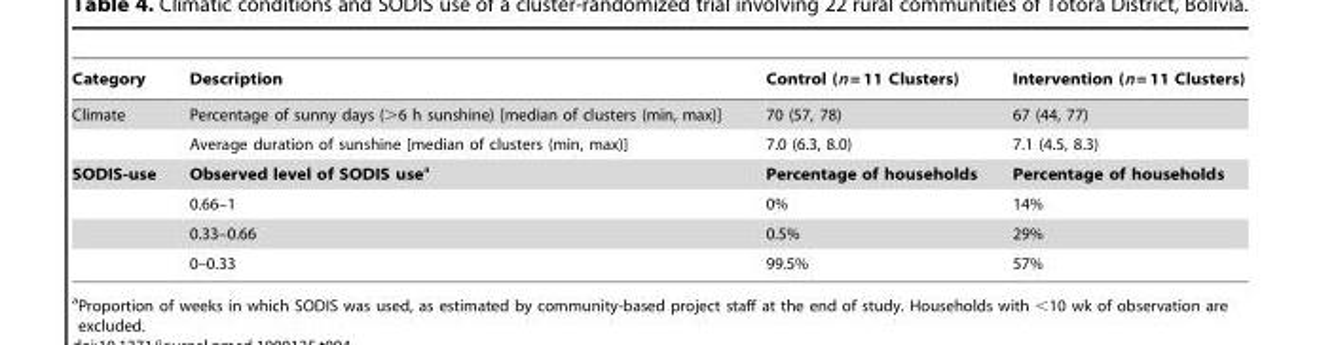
<table><thead><tr><td>Category</td><td>Description</td><td>Control (n = 11 Clusters)</td><td>Intervention (n = 11 Clusters)</td></tr></thead><tbody><tr><td rowspan="2">Climate</td><td>Percentage of sunny days (&gt;6 h sunshine) [median of clusters (min, max)]</td><td>70 (57, 78)</td><td>67 (44, 77)</td></tr><tr><td>Average duration of sunshine [median of clusters (min, max)]</td><td>7.0 (6.3, 8.0)</td><td>7.1 (4.5, 8.3)</td></tr><tr><td rowspan="4">SODIS-use</td><td>Observed level of SODIS usea</td><td>Percentage of households</td><td>Percentage of households</td></tr><tr><td>0.66–1</td><td>0%</td><td>14%</td></tr><tr><td>0.33–0.66</td><td>0.5%</td><td>29%</td></tr><tr><td>0–0.33</td><td>99.5%</td><td>57%</td></tr></tbody></table>